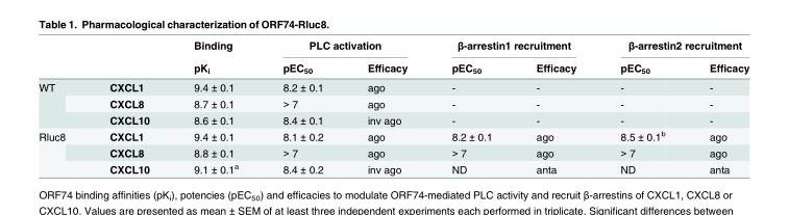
<table><thead><tr><td rowspan="2"></td><td rowspan="2"></td><td rowspan="2">Binding pK<sub>i</sub></td><td colspan="2">PLC activation</td><td colspan="2">β-arrestin1 recruitment</td><td colspan="2">β-arrestin2 recruitment</td></tr><tr><td>pEC<sub>50</sub></td><td>Efficacy</td><td>pEC<sub>50</sub></td><td>Efficacy</td><td>pEC<sub>50</sub></td><td>Efficacy</td></tr></thead><tbody><tr><td rowspan="3">WT</td><td>CXCL1</td><td>9.4 ± 0.1</td><td>8.2 ± 0.1</td><td>ago</td><td>-</td><td>-</td><td>-</td><td>-</td></tr><tr><td>CXCL8</td><td>8.7 ± 0.1</td><td>&gt; 7</td><td>ago</td><td>-</td><td>-</td><td>-</td><td>-</td></tr><tr><td>CXCL10</td><td>8.6 ± 0.1</td><td>8.4 ± 0.1</td><td>inv ago</td><td>-</td><td>-</td><td>-</td><td>-</td></tr><tr><td rowspan="3">Rluc8</td><td>CXCL1</td><td>9.4 ± 0.1</td><td>8.1 ± 0.2</td><td>ago</td><td>8.2 ± 0.1</td><td>ago</td><td>8.5 ± 0.1<sup>b</sup></td><td>ago</td></tr><tr><td>CXCL8</td><td>8.8 ± 0.1</td><td>&gt; 7</td><td>ago</td><td>&gt; 7</td><td>ago</td><td>&gt; 7</td><td>ago</td></tr><tr><td>CXCL10</td><td>9.1 ± 0.1<sup>a</sup></td><td>8.4 ± 0.2</td><td>inv ago</td><td>ND</td><td>anta</td><td>ND</td><td>anta</td></tr></tbody></table>